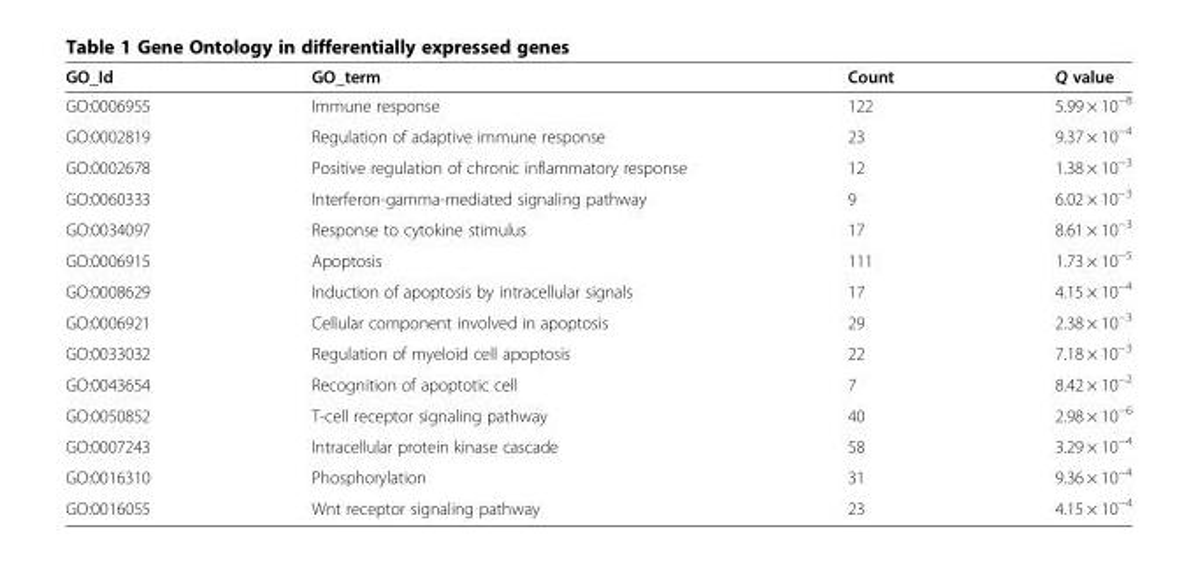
<table><thead><tr><td>GO_Id</td><td>GO_term</td><td>Count</td><td>Q value</td></tr></thead><tbody><tr><td>GO:0006955</td><td>Immune response</td><td>122</td><td>5.99 × 10<sup>−8</sup></td></tr><tr><td>GO:0002819</td><td>Regulation of adaptive immune response</td><td>23</td><td>9.37 × 10<sup>−4</sup></td></tr><tr><td>GO:0002678</td><td>Positive regulation of chronic inflammatory response</td><td>12</td><td>1.38 × 10<sup>−3</sup></td></tr><tr><td>GO:0060333</td><td>Interferon-gamma-mediated signaling pathway</td><td>9</td><td>6.02 × 10<sup>−3</sup></td></tr><tr><td>GO:0034097</td><td>Response to cytokine stimulus</td><td>17</td><td>8.61 × 10<sup>−3</sup></td></tr><tr><td>GO:0006915</td><td>Apoptosis</td><td>111</td><td>1.73 × 10<sup>−5</sup></td></tr><tr><td>GO:0008629</td><td>Induction of apoptosis by intracellular signals</td><td>17</td><td>4.15 × 10<sup>−4</sup></td></tr><tr><td>GO:0006921</td><td>Cellular component involved in apoptosis</td><td>29</td><td>2.38 × 10<sup>−3</sup></td></tr><tr><td>GO:0033032</td><td>Regulation of myeloid cell apoptosis</td><td>22</td><td>7.18 × 10<sup>−3</sup></td></tr><tr><td>GO:0043654</td><td>Recognition of apoptotic cell</td><td>7</td><td>8.42 × 10<sup>−2</sup></td></tr><tr><td>GO:0050852</td><td>T-cell receptor signaling pathway</td><td>40</td><td>2.98 × 10<sup>−6</sup></td></tr><tr><td>GO:0007243</td><td>Intracellular protein kinase cascade</td><td>58</td><td>3.29 × 10<sup>−4</sup></td></tr><tr><td>GO:0016310</td><td>Phosphorylation</td><td>31</td><td>9.36 × 10<sup>−4</sup></td></tr><tr><td>GO:0016055</td><td>Wnt receptor signaling pathway</td><td>23</td><td>4.15 × 10<sup>−4</sup></td></tr></tbody></table>